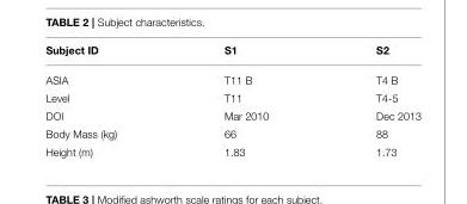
<table><thead><tr><td>Subject ID</td><td>S1</td><td>S2</td></tr></thead><tbody><tr><td>ASIA</td><td>T11 B</td><td>T4 B</td></tr><tr><td>Level</td><td>T11</td><td>T4-5</td></tr><tr><td>DOI</td><td>Mar 2010</td><td>Dec 2013</td></tr><tr><td>Body Mass (kg)</td><td>66</td><td>88</td></tr><tr><td>Height (m)</td><td>1.83</td><td>1.73</td></tr></tbody></table>